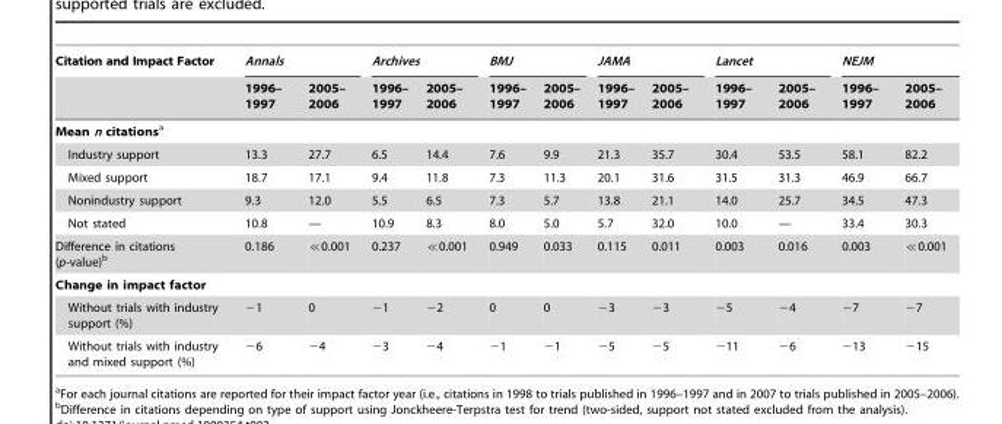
<table><thead><tr><td rowspan="2">Citation and Impact Factor</td><td colspan="2">Annals</td><td colspan="2">Archives</td><td colspan="2">BMJ</td><td colspan="2">JAMA</td><td colspan="2">Lancet</td><td colspan="2">NEJM</td></tr><tr><td>1996– 1997</td><td>2005– 2006</td><td>1996– 1997</td><td>2005– 2006</td><td>1996– 1997</td><td>2005– 2006</td><td>1996– 1997</td><td>2005– 2006</td><td>1996– 1997</td><td>2005– 2006</td><td>1996– 1997</td><td>2005– 2006</td></tr></thead><tbody><tr><td colspan="13">Mean n citationsa</td></tr><tr><td>Industry support</td><td>13.3</td><td>27.7</td><td>6.5</td><td>14.4</td><td>7.6</td><td>9.9</td><td>21.3</td><td>35.7</td><td>30.4</td><td>53.5</td><td>58.1</td><td>82.2</td></tr><tr><td>Mixed support</td><td>18.7</td><td>17.1</td><td>9.4</td><td>11.8</td><td>7.3</td><td>11.3</td><td>20.1</td><td>31.6</td><td>31.5</td><td>31.3</td><td>46.9</td><td>66.7</td></tr><tr><td>Nonindustry support</td><td>9.3</td><td>12.0</td><td>5.5</td><td>6.5</td><td>7.3</td><td>5.7</td><td>13.8</td><td>21.1</td><td>14.0</td><td>25.7</td><td>34.5</td><td>47.3</td></tr><tr><td>Not stated</td><td>10.8</td><td>—</td><td>10.9</td><td>8.3</td><td>8.0</td><td>5.0</td><td>5.7</td><td>32.0</td><td>10.0</td><td>—</td><td>33.4</td><td>30.3</td></tr><tr><td>Difference in citations (p-value)<sup>b</sup></td><td>0.186</td><td>≪0.001</td><td>0.237</td><td>≪0.001</td><td>0.949</td><td>0.033</td><td>0.115</td><td>0.011</td><td>0.003</td><td>0.016</td><td>0.003</td><td>≪0.001</td></tr><tr><td colspan="13">Change in impact factor</td></tr><tr><td>Without trials with industry support (%)</td><td>−1</td><td>0</td><td>−1</td><td>−2</td><td>0</td><td>0</td><td>−3</td><td>−3</td><td>−5</td><td>−4</td><td>−7</td><td>−7</td></tr><tr><td>Without trials with industry and mixed support (%)</td><td>−6</td><td>−4</td><td>−3</td><td>−4</td><td>−1</td><td>−1</td><td>−5</td><td>−5</td><td>−11</td><td>−6</td><td>−13</td><td>−15</td></tr></tbody></table>